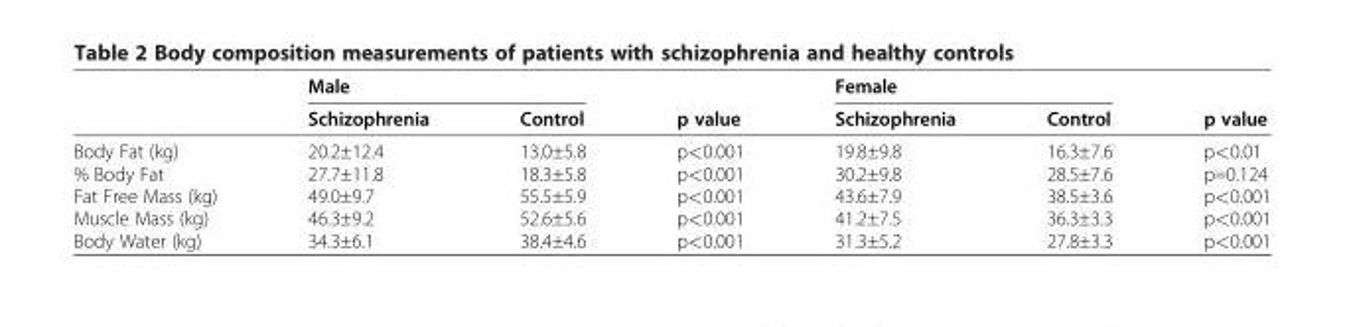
<table><thead><tr><td rowspan="2"></td><td colspan="2">Male</td><td rowspan="2">p value</td><td colspan="2">Female</td><td rowspan="2">p value</td></tr><tr><td>Schizophrenia</td><td>Control</td><td>Schizophrenia</td><td>Control</td></tr></thead><tbody><tr><td>Body Fat (kg)</td><td>20.2±12.4</td><td>13.0±5.8</td><td>p&lt;0.001</td><td>19.8±9.8</td><td>16.3±7.6</td><td>p&lt;0.01</td></tr><tr><td>% Body Fat</td><td>27.7±11.8</td><td>18.3±5.8</td><td>p&lt;0.001</td><td>30.2±9.8</td><td>28.5±7.6</td><td>p=0.124</td></tr><tr><td>Fat Free Mass (kg)</td><td>49.0±9.7</td><td>55.5±5.9</td><td>p&lt;0.001</td><td>43.6±7.9</td><td>38.5±3.6</td><td>p&lt;0.001</td></tr><tr><td>Muscle Mass (kg)</td><td>46.3±9.2</td><td>52.6±5.6</td><td>p&lt;0.001</td><td>41.2±7.5</td><td>36.3±3.3</td><td>p&lt;0.001</td></tr><tr><td>Body Water (kg)</td><td>34.3±6.1</td><td>38.4±4.6</td><td>p&lt;0.001</td><td>31.3±5.2</td><td>27.8±3.3</td><td>p&lt;0.001</td></tr></tbody></table>